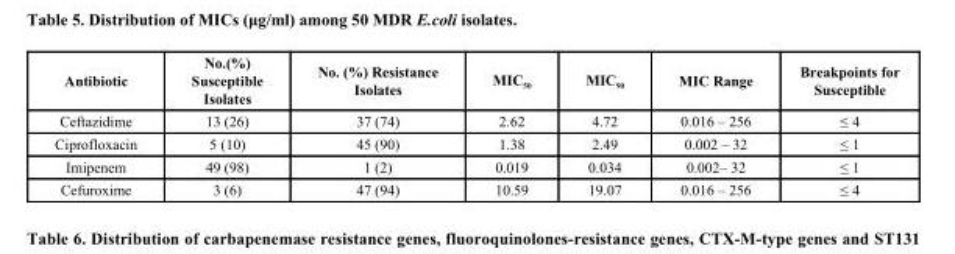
<table><thead><tr><td>Antibiotic</td><td>No.(%) Susceptible Isolates</td><td>No. (%) Resistance Isolates</td><td>MIC<sub>50</sub></td><td>MIC<sub>90</sub></td><td>MIC Range</td><td>Breakpoints for Susceptible</td></tr></thead><tbody><tr><td>Ceftazidime</td><td>13 (26)</td><td>37 (74)</td><td>2.62</td><td>4.72</td><td>0.016 – 256</td><td>≤ 4</td></tr><tr><td>Ciprofloxacin</td><td>5 (10)</td><td>45 (90)</td><td>1.38</td><td>2.49</td><td>0.002 – 32</td><td>≤ 1</td></tr><tr><td>Imipenem</td><td>49 (98)</td><td>1 (2)</td><td>0.019</td><td>0.034</td><td>0.002– 32</td><td>≤ 1</td></tr><tr><td>Cefuroxime</td><td>3 (6)</td><td>47 (94)</td><td>10.59</td><td>19.07</td><td>0.016 – 256</td><td>≤ 4</td></tr></tbody></table>